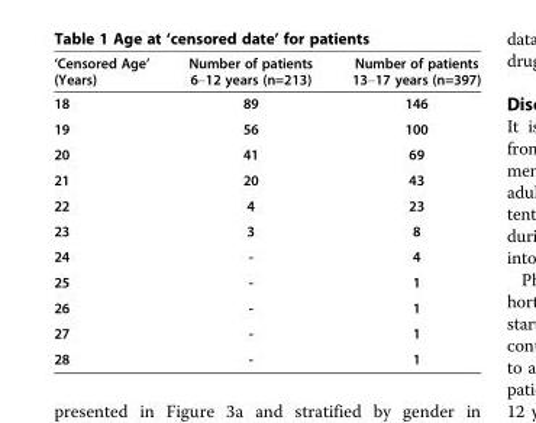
<table><thead><tr><td>‘Censored Age’ (Years)</td><td>Number of patients 6–12 years (n=213)</td><td>Number of patients 13–17 years (n=397)</td></tr></thead><tbody><tr><td>18</td><td>89</td><td>146</td></tr><tr><td>19</td><td>56</td><td>100</td></tr><tr><td>20</td><td>41</td><td>69</td></tr><tr><td>21</td><td>20</td><td>43</td></tr><tr><td>22</td><td>4</td><td>23</td></tr><tr><td>23</td><td>3</td><td>8</td></tr><tr><td>24</td><td>-</td><td>4</td></tr><tr><td>25</td><td>-</td><td>1</td></tr><tr><td>26</td><td>-</td><td>1</td></tr><tr><td>27</td><td>-</td><td>1</td></tr><tr><td>28</td><td>-</td><td>1</td></tr></tbody></table>